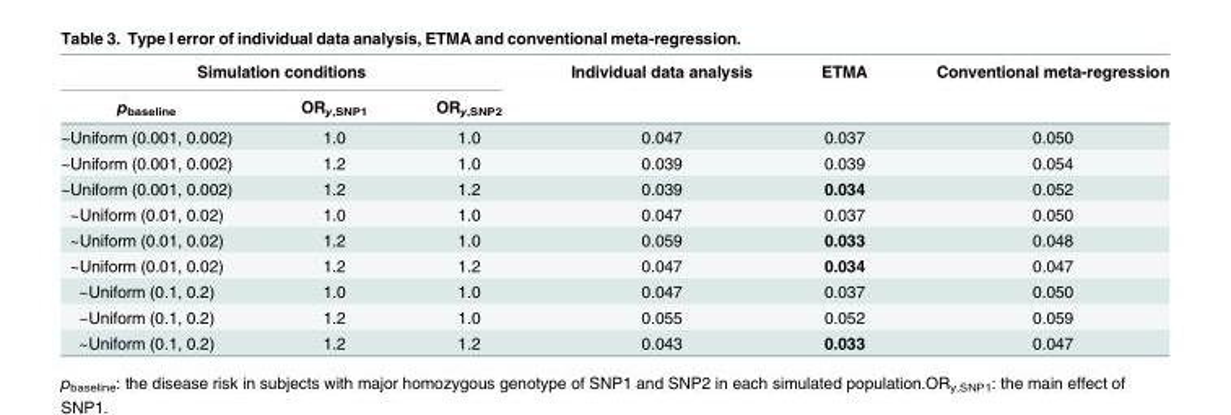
<table><thead><tr><td colspan="3">Simulation conditions</td><td rowspan="2">Individual data analysis</td><td rowspan="2">ETMA</td><td rowspan="2">Conventional meta-regression</td></tr><tr><td>p<sub>baseline</sub></td><td>OR<sub>y,SNP1</sub></td><td>OR<sub>y,SNP2</sub></td></tr></thead><tbody><tr><td>~Uniform (0.001, 0.002)</td><td>1.0</td><td>1.0</td><td>0.047</td><td>0.037</td><td>0.050</td></tr><tr><td>~Uniform (0.001, 0.002)</td><td>1.2</td><td>1.0</td><td>0.039</td><td>0.039</td><td>0.054</td></tr><tr><td>~Uniform (0.001, 0.002)</td><td>1.2</td><td>1.2</td><td>0.039</td><td>0.034</td><td>0.052</td></tr><tr><td>~Uniform (0.01, 0.02)</td><td>1.0</td><td>1.0</td><td>0.047</td><td>0.037</td><td>0.050</td></tr><tr><td>~Uniform (0.01, 0.02)</td><td>1.2</td><td>1.0</td><td>0.059</td><td>0.033</td><td>0.048</td></tr><tr><td>~Uniform (0.01, 0.02)</td><td>1.2</td><td>1.2</td><td>0.047</td><td>0.034</td><td>0.047</td></tr><tr><td>~Uniform (0.1, 0.2)</td><td>1.0</td><td>1.0</td><td>0.047</td><td>0.037</td><td>0.050</td></tr><tr><td>~Uniform (0.1, 0.2)</td><td>1.2</td><td>1.0</td><td>0.055</td><td>0.052</td><td>0.059</td></tr><tr><td>~Uniform (0.1, 0.2)</td><td>1.2</td><td>1.2</td><td>0.043</td><td>0.033</td><td>0.047</td></tr></tbody></table>